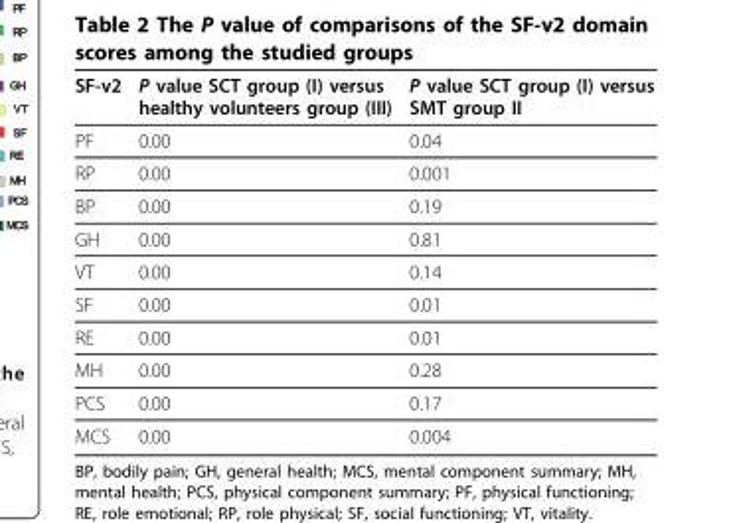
<table><thead><tr><td>SF-v2</td><td>P value SCT group (I) versus healthy volunteers group (III)</td><td>P value SCT group (I) versus SMT group II</td></tr></thead><tbody><tr><td>PF</td><td>0.00</td><td>0.04</td></tr><tr><td>RP</td><td>0.00</td><td>0.001</td></tr><tr><td>BP</td><td>0.00</td><td>0.19</td></tr><tr><td>GH</td><td>0.00</td><td>0.81</td></tr><tr><td>VT</td><td>0.00</td><td>0.14</td></tr><tr><td>SF</td><td>0.00</td><td>0.01</td></tr><tr><td>RE</td><td>0.00</td><td>0.01</td></tr><tr><td>MH</td><td>0.00</td><td>0.28</td></tr><tr><td>PCS</td><td>0.00</td><td>0.17</td></tr><tr><td>MCS</td><td>0.00</td><td>0.004</td></tr></tbody></table>